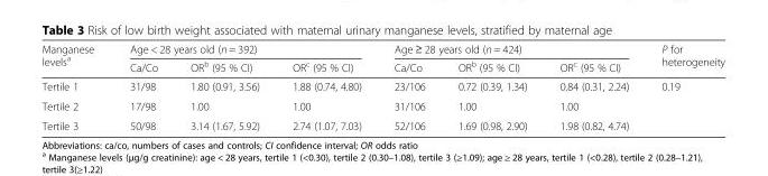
<table><thead><tr><td rowspan="2">Manganese levels<sup>a</sup></td><td colspan="3">Age &lt; 28 years old (n = 392)</td><td colspan="3">Age ≥ 28 years old (n = 424)</td><td rowspan="2">P for heterogeneity</td></tr><tr><td>Ca/Co</td><td>OR<sup>b</sup> (95 % CI)</td><td>OR<sup>c</sup> (95 % CI)</td><td>Ca/Co</td><td>OR<sup>b</sup> (95 % CI)</td><td>OR<sup>c</sup> (95 % CI)</td></tr></thead><tbody><tr><td>Tertile 1</td><td>31/98</td><td>1.80 (0.91, 3.56)</td><td>1.88 (0.74, 4.80)</td><td>23/106</td><td>0.72 (0.39, 1.34)</td><td>0.84 (0.31, 2.24)</td><td>0.19</td></tr><tr><td>Tertile 2</td><td>17/98</td><td>1.00</td><td>1.00</td><td>31/106</td><td>1.00</td><td>1.00</td><td></td></tr><tr><td>Tertile 3</td><td>50/98</td><td>3.14 (1.67, 5.92)</td><td>2.74 (1.07, 7.03)</td><td>52/106</td><td>1.69 (0.98, 2.90)</td><td>1.98 (0.82, 4.74)</td><td></td></tr></tbody></table>